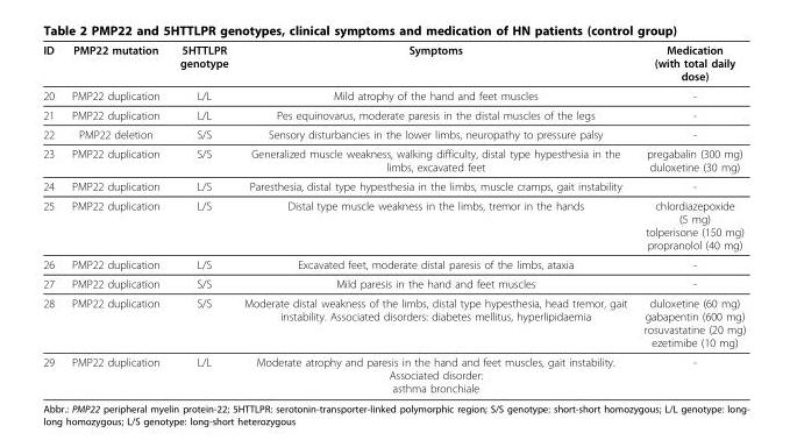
<table><thead><tr><td>ID</td><td>PMP22 mutation</td><td>5HTTLPR genotype</td><td>Symptoms</td><td>Medication (with total daily dose)</td></tr></thead><tbody><tr><td>20</td><td>PMP22 duplication</td><td>L/L</td><td>Mild atrophy of the hand and feet muscles</td><td>-</td></tr><tr><td>21</td><td>PMP22 duplication</td><td>L/L</td><td>Pes equinovarus, moderate paresis in the distal muscles of the legs</td><td>-</td></tr><tr><td>22</td><td>PMP22 deletion</td><td>S/S</td><td>Sensory disturbancies in the lower limbs, neuropathy to pressure palsy</td><td>-</td></tr><tr><td>23</td><td>PMP22 duplication</td><td>S/S</td><td>Generalized muscle weakness, walking difficulty, distal type hypesthesia in the limbs, excavated feet</td><td>pregabalin (300 mg) duloxetine (30 mg)</td></tr><tr><td>24</td><td>PMP22 duplication</td><td>L/S</td><td>Paresthesia, distal type hypesthesia in the limbs, muscle cramps, gait instability</td><td>-</td></tr><tr><td>25</td><td>PMP22 duplication</td><td>L/S</td><td>Distal type muscle weakness in the limbs, tremor in the hands</td><td>chlordiazepoxide (5 mg) tolperisone (150 mg) propranolol (40 mg)</td></tr><tr><td>26</td><td>PMP22 duplication</td><td>L/S</td><td>Excavated feet, moderate distal paresis of the limbs, ataxia</td><td>-</td></tr><tr><td>27</td><td>PMP22 duplication</td><td>S/S</td><td>Mild paresis in the hand and feet muscles</td><td>-</td></tr><tr><td>28</td><td>PMP22 duplication</td><td>S/S</td><td>Moderate distal weakness of the limbs, distal type hypesthesia, head tremor, gait instability. Associated disorders: diabetes mellitus, hyperlipidaemia</td><td>duloxetine (60 mg) gabapentin (600 mg) rosuvastatine (20 mg) ezetimibe (10 mg)</td></tr><tr><td>29</td><td>PMP22 duplication</td><td>L/L</td><td>Moderate atrophy and paresis in the hand and feet muscles, gait instability. Associated disorder: asthma bronchiale</td><td>-</td></tr></tbody></table>